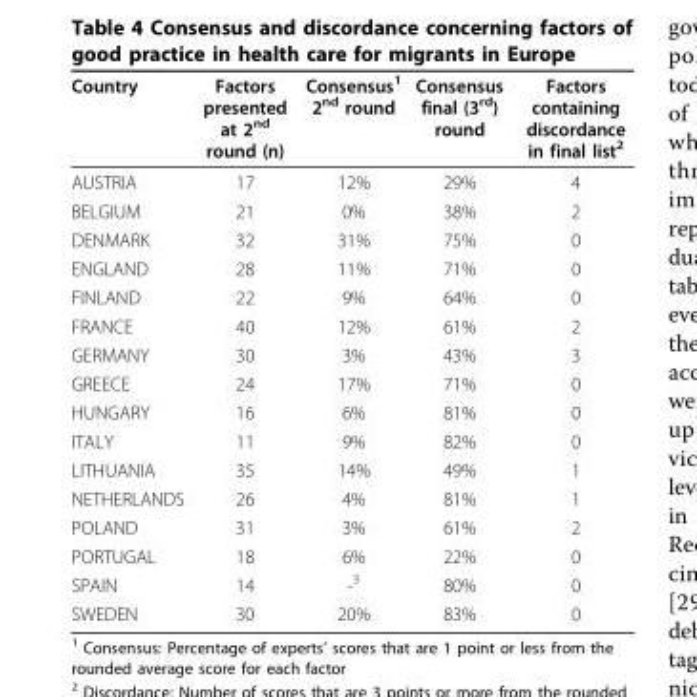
<table><thead><tr><td>Country</td><td>Factors presented at 2<sup>nd</sup> round (n)</td><td>Consensus<sup>1</sup> 2<sup>nd</sup> round</td><td>Consensus final (3<sup>rd</sup>) round</td><td>Factors containing discordance in final list<sup>2</sup></td></tr></thead><tbody><tr><td>AUSTRIA</td><td>17</td><td>12%</td><td>29%</td><td>4</td></tr><tr><td>BELGIUM</td><td>21</td><td>0%</td><td>38%</td><td>2</td></tr><tr><td>DENMARK</td><td>32</td><td>31%</td><td>75%</td><td>0</td></tr><tr><td>ENGLAND</td><td>28</td><td>11%</td><td>71%</td><td>0</td></tr><tr><td>FINLAND</td><td>22</td><td>9%</td><td>64%</td><td>0</td></tr><tr><td>FRANCE</td><td>40</td><td>12%</td><td>61%</td><td>2</td></tr><tr><td>GERMANY</td><td>30</td><td>3%</td><td>43%</td><td>3</td></tr><tr><td>GREECE</td><td>24</td><td>17%</td><td>71%</td><td>0</td></tr><tr><td>HUNGARY</td><td>16</td><td>6%</td><td>81%</td><td>0</td></tr><tr><td>ITALY</td><td>11</td><td>9%</td><td>82%</td><td>0</td></tr><tr><td>LITHUANIA</td><td>35</td><td>14%</td><td>49%</td><td>1</td></tr><tr><td>NETHERLANDS</td><td>26</td><td>4%</td><td>81%</td><td>1</td></tr><tr><td>POLAND</td><td>31</td><td>3%</td><td>61%</td><td>2</td></tr><tr><td>PORTUGAL</td><td>18</td><td>6%</td><td>22%</td><td>0</td></tr><tr><td>SPAIN</td><td>14</td><td>-<sup>3</sup></td><td>80%</td><td>0</td></tr><tr><td>SWEDEN</td><td>30</td><td>20%</td><td>83%</td><td>0</td></tr></tbody></table>